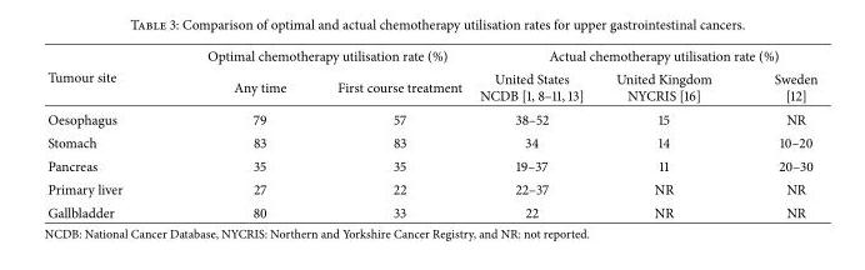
<table><thead><tr><td rowspan="2">Tumour site</td><td colspan="2">Optimal chemotherapy utilisation rate (%)</td><td colspan="3">Actual chemotherapy utilisation rate (%)</td></tr><tr><td>Any time</td><td>First course treatment</td><td>United States NCDB [1, 8–11, 13]</td><td>United Kingdom NYCRIS [16]</td><td>Sweden [12]</td></tr></thead><tbody><tr><td>Oesophagus</td><td>79</td><td>57</td><td>38–52</td><td>15</td><td>NR</td></tr><tr><td>Stomach</td><td>83</td><td>83</td><td>34</td><td>14</td><td>10–20</td></tr><tr><td>Pancreas</td><td>35</td><td>35</td><td>19–37</td><td>11</td><td>20–30</td></tr><tr><td>Primary liver</td><td>27</td><td>22</td><td>22–37</td><td>NR</td><td>NR</td></tr><tr><td>Gallbladder</td><td>80</td><td>33</td><td>22</td><td>NR</td><td>NR</td></tr></tbody></table>